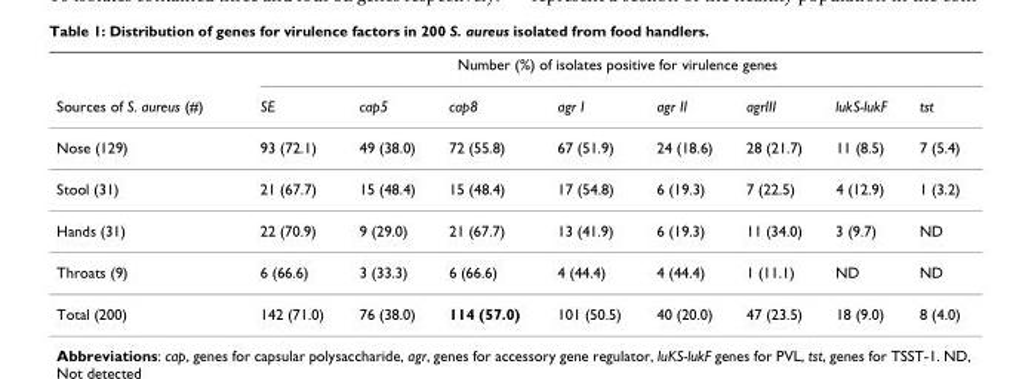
<table><thead><tr><td rowspan="2">Sources of S. aureus (#)</td><td colspan="8">Number (%) of isolates positive for virulence genes</td></tr><tr><td>SE</td><td>cap5</td><td>cap8</td><td>agr I</td><td>agr II</td><td>agrIII</td><td>lukS-lukF</td><td>tst</td></tr></thead><tbody><tr><td>Nose (129)</td><td>93 (72.1)</td><td>49 (38.0)</td><td>72 (55.8)</td><td>67 (51.9)</td><td>24 (18.6)</td><td>28 (21.7)</td><td>11 (8.5)</td><td>7 (5.4)</td></tr><tr><td>Stool (31)</td><td>21 (67.7)</td><td>15 (48.4)</td><td>15 (48.4)</td><td>17 (54.8)</td><td>6 (19.3)</td><td>7 (22.5)</td><td>4 (12.9)</td><td>1 (3.2)</td></tr><tr><td>Hands (31)</td><td>22 (70.9)</td><td>9 (29.0)</td><td>21 (67.7)</td><td>13 (41.9)</td><td>6 (19.3)</td><td>11 (34.0)</td><td>3 (9.7)</td><td>ND</td></tr><tr><td>Throats (9)</td><td>6 (66.6)</td><td>3 (33.3)</td><td>6 (66.6)</td><td>4 (44.4)</td><td>4 (44.4)</td><td>1 (11.1)</td><td>ND</td><td>ND</td></tr><tr><td>Total (200)</td><td>142 (71.0)</td><td>76 (38.0)</td><td>114 (57.0)</td><td>101 (50.5)</td><td>40 (20.0)</td><td>47 (23.5)</td><td>18 (9.0)</td><td>8 (4.0)</td></tr></tbody></table>